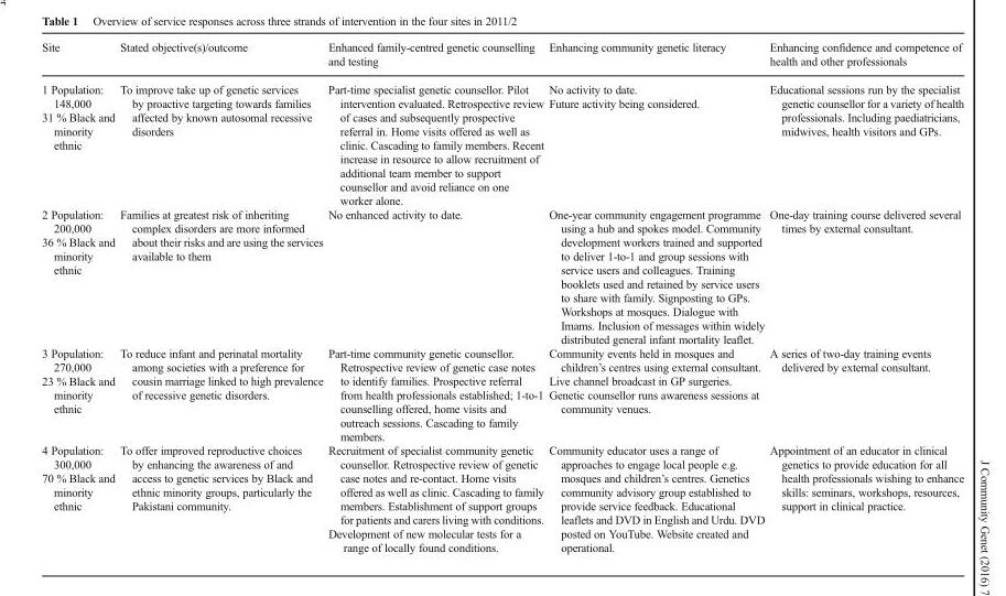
<table><thead><tr><td>Site</td><td>Stated objective(s)/outcome</td><td>Enhanced family-centred genetic counselling and testing</td><td>Enhancing community genetic literacy</td><td>Enhancing confidence and competence of health and other professionals</td></tr></thead><tbody><tr><td>1 Population: 148,000 31 % Black and minority ethnic</td><td>To improve take up of genetic services by proactive targeting towards families affected by known autosomal recessive disorders</td><td>Part-time specialist genetic counsellor. Pilot intervention evaluated. Retrospective review of cases and subsequently prospective referral in. Home visits offered as well as clinic. Cascading to family members. Recent increase in resource to allow recruitment of additional team member to support counsellor and avoid reliance on one worker alone.</td><td>No activity to date. Future activity being considered.</td><td>Educational sessions run by the specialist genetic counsellor for a variety of health professionals. Including paediatricians, midwives, health visitors and GPs.</td></tr><tr><td>2 Population: 200,000 36 % Black and minority ethnic</td><td>Families at greatest risk of inheriting complex disorders are more informed about their risks and are using the services available to them</td><td>No enhanced activity to date.</td><td>One-year community engagement programme using a hub and spokes model. Community development workers trained and supported to deliver 1-to-1 and group sessions with service users and colleagues. Training booklets used and retained by service users to share with family. Signposting to GPs. Workshops at mosques. Dialogue with Imams. Inclusion of messages within widely distributed general infant mortality leaflet.</td><td>One-day training course delivered several times by external consultant.</td></tr><tr><td>3 Population: 270,000 23 % Black and minority ethnic</td><td>To reduce infant and perinatal mortality among societies with a preference for cousin marriage linked to high prevalence of recessive genetic disorders.</td><td>Part-time community genetic counsellor. Retrospective review of genetic case notes to identify families. Prospective referral from health professionals established; 1-to-1 counselling offered, home visits and outreach sessions. Cascading to family members.</td><td>Community events held in mosques and children’s centres using external consultant. Live channel broadcast in GP surgeries. Genetic counsellor runs awareness sessions at community venues.</td><td>A series of two-day training events delivered by external consultant.</td></tr><tr><td>4 Population: 300,000 70 % Black and minority ethnic</td><td>To offer improved reproductive choices by enhancing the awareness of and access to genetic services by Black and ethnic minority groups, particularly the Pakistani community.</td><td>Recruitment of specialist community genetic counsellor. Retrospective review of genetic case notes and re-contact. Home visits offered as well as clinic. Cascading to family members. Establishment of support groups for patients and carers living with conditions. Development of new molecular tests for a range of locally found conditions.</td><td>Community educator uses a range of approaches to engage local people e.g. mosques and children’s centres. Genetics community advisory group established to provide service feedback. Educational leaflets and DVD in English and Urdu. DVD posted on YouTube. Website created and operational.</td><td>Appointment of an educator in clinical genetics to provide education for all health professionals wishing to enhance skills: seminars, workshops, resources, support in clinical practice.</td></tr></tbody></table>